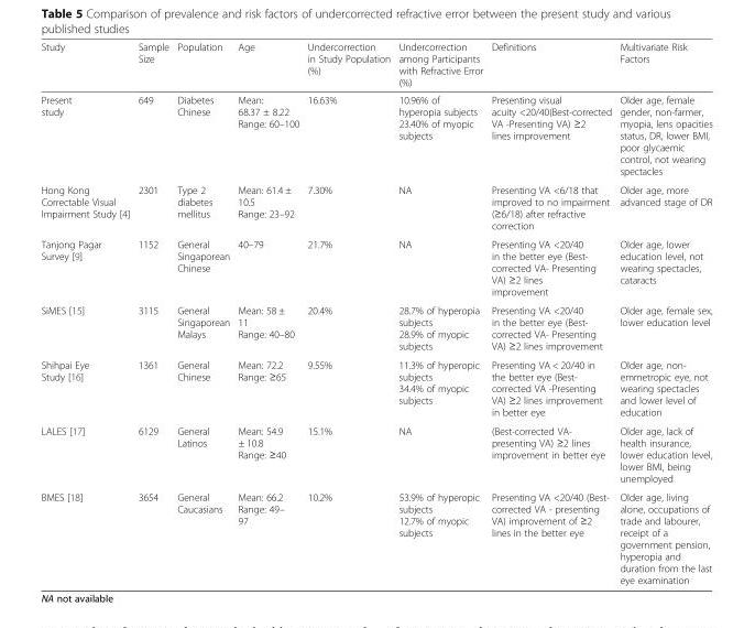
<table><thead><tr><td>Study</td><td>Sample Size</td><td>Population</td><td>Age</td><td>Undercorrection in Study Population (%)</td><td>Undercorrection among Participants with Refractive Error (%)</td><td>Definitions</td><td>Multivariate Risk Factors</td></tr></thead><tbody><tr><td>Present study</td><td>649</td><td>Diabetes Chinese</td><td>Mean: 68.37 ± 8.22 Range: 60–100</td><td>16.63%</td><td>10.96% of hyperopia subjects 23.40% of myopic subjects</td><td>Presenting visual acuity &lt;20/40(Best-corrected VA -Presenting VA) ≥2 lines improvement</td><td>Older age, female gender, non-farmer, myopia, lens opacities status, DR, lower BMI, poor glycaemic control, not wearing spectacles</td></tr><tr><td>Hong Kong Correctable Visual Impairment Study [4]</td><td>2301</td><td>Type 2 diabetes mellitus</td><td>Mean: 61.4 ± 10.5 Range: 23–92</td><td>7.30%</td><td>NA</td><td>Presenting VA &lt;6/18 that improved to no impairment (≥6/18) after refractive correction</td><td>Older age, more advanced stage of DR</td></tr><tr><td>Tanjong Pagar Survey [9]</td><td>1152</td><td>General Singaporean Chinese</td><td>40–79</td><td>21.7%</td><td>NA</td><td>Presenting VA &lt;20/40 in the better eye (Best- corrected VA- Presenting VA) ≥2 lines improvement</td><td>Older age, lower education level, not wearing spectacles, cataracts</td></tr><tr><td>SiMES [15]</td><td>3115</td><td>General Singaporean Malays</td><td>Mean: 58 ± 11 Range: 40–80</td><td>20.4%</td><td>28.7% of hyperopia subjects 28.9% of myopic subjects</td><td>Presenting VA &lt;20/40 in the better eye (Best- corrected VA- Presenting VA) ≥2 lines improvement</td><td>Older age, female sex, lower education level</td></tr><tr><td>Shihpai Eye Study [16]</td><td>1361</td><td>General Chinese</td><td>Mean: 72.2 Range: ≥65</td><td>9.55%</td><td>11.3% of hyperopic subjects 34.4% of myopic subjects</td><td>Presenting VA &lt; 20/40 in the better eye (Best- corrected VA -Presenting VA) ≥2 lines improvement in better eye</td><td>Older age, non- emmetropic eye, not wearing spectacles and lower level of education</td></tr><tr><td>LALES [17]</td><td>6129</td><td>General Latinos</td><td>Mean: 54.9 ± 10.8 Range: ≥40</td><td>15.1%</td><td>NA</td><td>(Best-corrected VA- presenting VA) ≥2 lines improvement in better eye</td><td>Older age, lack of health insurance, lower education level, lower BMI, being unemployed</td></tr><tr><td>BMES [18]</td><td>3654</td><td>General Caucasians</td><td>Mean: 66.2 Range: 49– 97</td><td>10.2%</td><td>53.9% of hyperopic subjects 12.7% of myopic subjects</td><td>Presenting VA &lt;20/40 (Best- corrected VA - presenting VA) improvement of ≥2 lines in the better eye</td><td>Older age, living alone, occupations of trade and labourer, receipt of a government pension, hyperopia and duration from the last eye examination</td></tr></tbody></table>